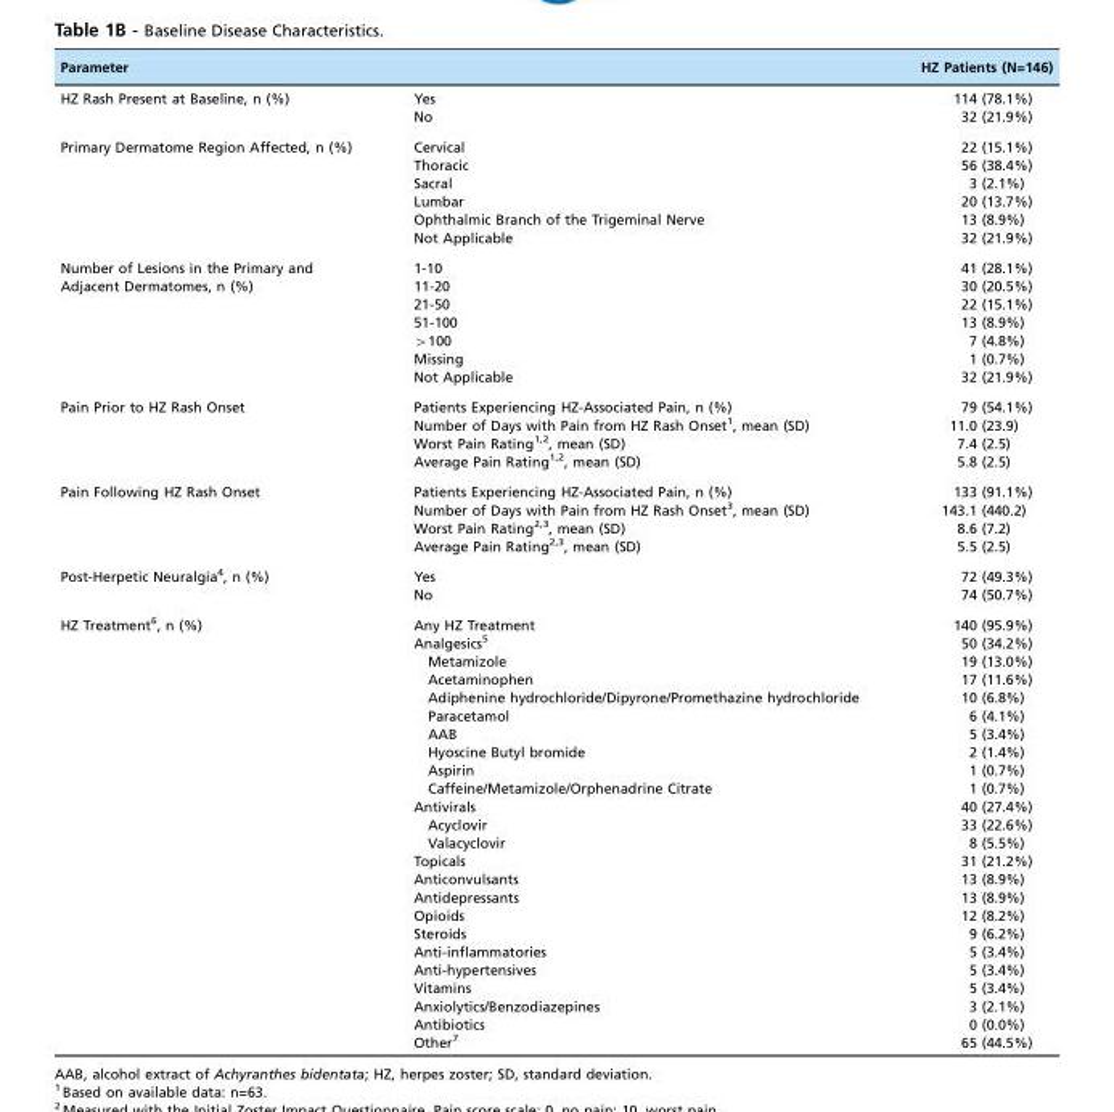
<table><thead><tr><td>Parameter</td><td></td><td>HZ Patients (N=146)</td></tr></thead><tbody><tr><td rowspan="2">HZ Rash Present at Baseline, n (%)</td><td>Yes</td><td>114 (78.1%)</td></tr><tr><td>No</td><td>32 (21.9%)</td></tr><tr><td rowspan="6">Primary Dermatome Region Affected, n (%)</td><td>Cervical</td><td>22 (15.1%)</td></tr><tr><td>Thoracic</td><td>56 (38.4%)</td></tr><tr><td>Sacral</td><td>3 (2.1%)</td></tr><tr><td>Lumbar</td><td>20 (13.7%)</td></tr><tr><td>Ophthalmic Branch of the Trigeminal Nerve</td><td>13 (8.9%)</td></tr><tr><td>Not Applicable</td><td>32 (21.9%)</td></tr><tr><td rowspan="7">Number of Lesions in the Primary and Adjacent Dermatomes, n (%)</td><td>1-10</td><td>41 (28.1%)</td></tr><tr><td>11-20</td><td>30 (20.5%)</td></tr><tr><td>21-50</td><td>22 (15.1%)</td></tr><tr><td>51-100</td><td>13 (8.9%)</td></tr><tr><td>&gt;100</td><td>7 (4.8%)</td></tr><tr><td>Missing</td><td>1 (0.7%)</td></tr><tr><td>Not Applicable</td><td>32 (21.9%)</td></tr><tr><td rowspan="4">Pain Prior to HZ Rash Onset</td><td>Patients Experiencing HZ-Associated Pain, n (%)</td><td>79 (54.1%)</td></tr><tr><td>Number of Days with Pain from HZ Rash Onset<sup>1</sup>, mean (SD)</td><td>11.0 (23.9)</td></tr><tr><td>Worst Pain Rating<sup>1</sup>,<sup>2</sup>, mean (SD)</td><td>7.4 (2.5)</td></tr><tr><td>Average Pain Rating<sup>1</sup>,<sup>2</sup>, mean (SD)</td><td>5.8 (2.5)</td></tr><tr><td rowspan="4">Pain Following HZ Rash Onset</td><td>Patients Experiencing HZ-Associated Pain, n (%)</td><td>133 (91.1%)</td></tr><tr><td>Number of Days with Pain from HZ Rash Onset<sup>3</sup>, mean (SD)</td><td>143.1 (440.2)</td></tr><tr><td>Worst Pain Rating<sup>2</sup>,<sup>3</sup>, mean (SD)</td><td>8.6 (7.2)</td></tr><tr><td>Average Pain Rating<sup>2</sup>,<sup>3</sup>, mean (SD)</td><td>5.5 (2.5)</td></tr><tr><td rowspan="2">Post-Herpetic Neuralgia<sup>4</sup>, n (%)</td><td>Yes</td><td>72 (49.3%)</td></tr><tr><td>No</td><td>74 (50.7%)</td></tr><tr><td rowspan="24">HZ Treatment<sup>6</sup>, n (%)</td><td>Any HZ Treatment</td><td>140 (95.9%)</td></tr><tr><td>Analgesics<sup>5</sup></td><td>50 (34.2%)</td></tr><tr><td>Metamizole</td><td>19 (13.0%)</td></tr><tr><td>Acetaminophen</td><td>17 (11.6%)</td></tr><tr><td>Adiphenine hydrochloride/Dipyrone/Promethazine hydrochloride</td><td>10 (6.8%)</td></tr><tr><td>Paracetamol</td><td>6 (4.1%)</td></tr><tr><td>AAB</td><td>5 (3.4%)</td></tr><tr><td>Hyoscine Butyl bromide</td><td>2 (1.4%)</td></tr><tr><td>Aspirin</td><td>1 (0.7%)</td></tr><tr><td>Caffeine/Metamizole/Orphenadrine Citrate</td><td>1 (0.7%)</td></tr><tr><td>Antivirals</td><td>40 (27.4%)</td></tr><tr><td>Acyclovir</td><td>33 (22.6%)</td></tr><tr><td>Valacyclovir</td><td>8 (5.5%)</td></tr><tr><td>Topicals</td><td>31 (21.2%)</td></tr><tr><td>Anticonvulsants</td><td>13 (8.9%)</td></tr><tr><td>Antidepressants</td><td>13 (8.9%)</td></tr><tr><td>Opioids</td><td>12 (8.2%)</td></tr><tr><td>Steroids</td><td>9 (6.2%)</td></tr><tr><td>Anti-inflammatories</td><td>5 (3.4%)</td></tr><tr><td>Anti-hypertensives</td><td>5 (3.4%)</td></tr><tr><td>Vitamins</td><td>5 (3.4%)</td></tr><tr><td>Anxiolytics/Benzodiazepines</td><td>3 (2.1%)</td></tr><tr><td>Antibiotics</td><td>0 (0.0%)</td></tr><tr><td>Other<sup>7</sup></td><td>65 (44.5%)</td></tr></tbody></table>